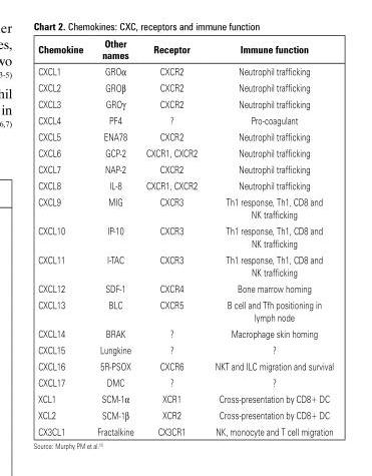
<table><thead><tr><td>chemokine</td><td>Other names</td><td>Receptor</td><td>immune function</td></tr></thead><tbody><tr><td>CXCL1</td><td>GROα</td><td>CXCR2</td><td>Neutrophil trafficking</td></tr><tr><td>CXCL2</td><td>GROβ</td><td>CXCR2</td><td>Neutrophil trafficking</td></tr><tr><td>CXCL3</td><td>GROγ</td><td>CXCR2</td><td>Neutrophil trafficking</td></tr><tr><td>CXCL4</td><td>PF4</td><td>?</td><td>Pro-coagulant</td></tr><tr><td>CXCL5</td><td>ENA78</td><td>CXCR2</td><td>Neutrophil trafficking</td></tr><tr><td>CXCL6</td><td>GCP-2</td><td>CXCR1, CXCR2</td><td>Neutrophil trafficking</td></tr><tr><td>CXCL7</td><td>NAP-2</td><td>CXCR2</td><td>Neutrophil trafficking</td></tr><tr><td>CXCL8</td><td>IL-8</td><td>CXCR1, CXCR2</td><td>Neutrophil trafficking</td></tr><tr><td>CXCL9</td><td>MIG</td><td>CXCR3</td><td>Th1 response, Th1, CD8 and NK trafficking</td></tr><tr><td>CXCL10</td><td>IP-10</td><td>CXCR3</td><td>Th1 response, Th1, CD8 and NK trafficking</td></tr><tr><td>CXCL11</td><td>I-TAC</td><td>CXCR3</td><td>Th1 response, Th1, CD8 and NK trafficking</td></tr><tr><td>CXCL12</td><td>SDF-1</td><td>CXCR4</td><td>Bone marrow homing</td></tr><tr><td>CXCL13</td><td>BLC</td><td>CXCR5</td><td>B cell and Tfh positioning in lymph node</td></tr><tr><td>CXCL14</td><td>BRAK</td><td>?</td><td>Macrophage skin homing</td></tr><tr><td>CXCL15</td><td>Lungkine</td><td>?</td><td>?</td></tr><tr><td>CXCL16</td><td>5R-PSOX</td><td>CXCR6</td><td>NKT and ILC migration and survival</td></tr><tr><td>CXCL17</td><td>DMC</td><td>?</td><td>?</td></tr><tr><td>XCL1</td><td>SCM-1α</td><td>XCR1</td><td>Cross-presentation by CD8+ DC</td></tr><tr><td>XCL2</td><td>SCM-1β</td><td>XCR2</td><td>Cross-presentation by CD8+ DC</td></tr><tr><td>CX3CL1</td><td>Fractalkine</td><td>CX3CR1</td><td>NK, monocyte and T cell migration</td></tr></tbody></table>